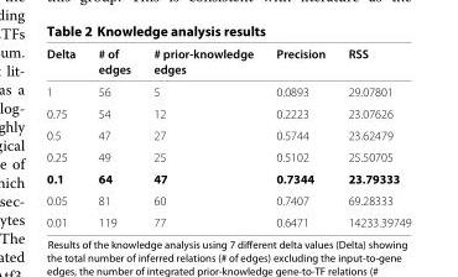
<table><thead><tr><td rowspan="2">Delta</td><td rowspan="2"># of edges</td><td rowspan="2"># prior-knowledge edges</td><td rowspan="2">Precision</td><td rowspan="2">RSS</td></tr><tr></tr></thead><tbody><tr><td>1</td><td>56</td><td>5</td><td>0.0893</td><td>29.07801</td></tr><tr><td>0.75</td><td>54</td><td>12</td><td>0.2223</td><td>23.07626</td></tr><tr><td>0.5</td><td>47</td><td>27</td><td>0.5744</td><td>23.62479</td></tr><tr><td>0.25</td><td>49</td><td>25</td><td>0.5102</td><td>25.50705</td></tr><tr><td>0.1</td><td>64</td><td>47</td><td>0.7344</td><td>23.79333</td></tr><tr><td>0.05</td><td>81</td><td>60</td><td>0.7407</td><td>69.28333</td></tr><tr><td>0.01</td><td>119</td><td>77</td><td>0.6471</td><td>14233.39749</td></tr></tbody></table>